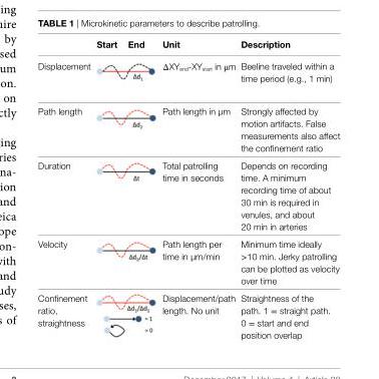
<table><thead><tr><td></td><td>Start</td><td>end</td><td>Unit</td><td>Description</td></tr></thead><tbody><tr><td>Displacement</td><td colspan="2"></td><td>ΔXYend-XYstart in μm</td><td>Beeline traveled within a time period (e.g., 1 min)</td></tr><tr><td>Path length</td><td colspan="2"></td><td>Path length in µm</td><td>Strongly affected by motion artifacts. False measurements also affect the confinement ratio</td></tr><tr><td>Duration</td><td colspan="2"></td><td>Total patrolling time in seconds</td><td>Depends on recording time. A minimum recording time of about 30 min is required in venules, and about 20 min in arteries</td></tr><tr><td>Velocity</td><td colspan="2"></td><td>Path length per time in µm/min</td><td>Minimum time ideally &gt;10 min. Jerky patrolling can be plotted as velocity over time</td></tr><tr><td>Confinement ratio, straightness</td><td colspan="2"></td><td>Displacement/path length. No unit</td><td>Straightness of the path. 1 = straight path. 0 = start and end position overlap</td></tr></tbody></table>